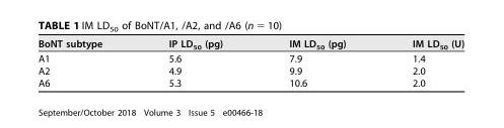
<table><thead><tr><td>BoNT subtype</td><td>IP LD<sub>50</sub> (pg)</td><td>IM LD<sub>50</sub> (pg)</td><td>IM LD<sub>50</sub> (U)</td></tr></thead><tbody><tr><td>A1</td><td>5.6</td><td>7.9</td><td>1.4</td></tr><tr><td>A2</td><td>4.9</td><td>9.9</td><td>2.0</td></tr><tr><td>A6</td><td>5.3</td><td>10.6</td><td>2.0</td></tr></tbody></table>